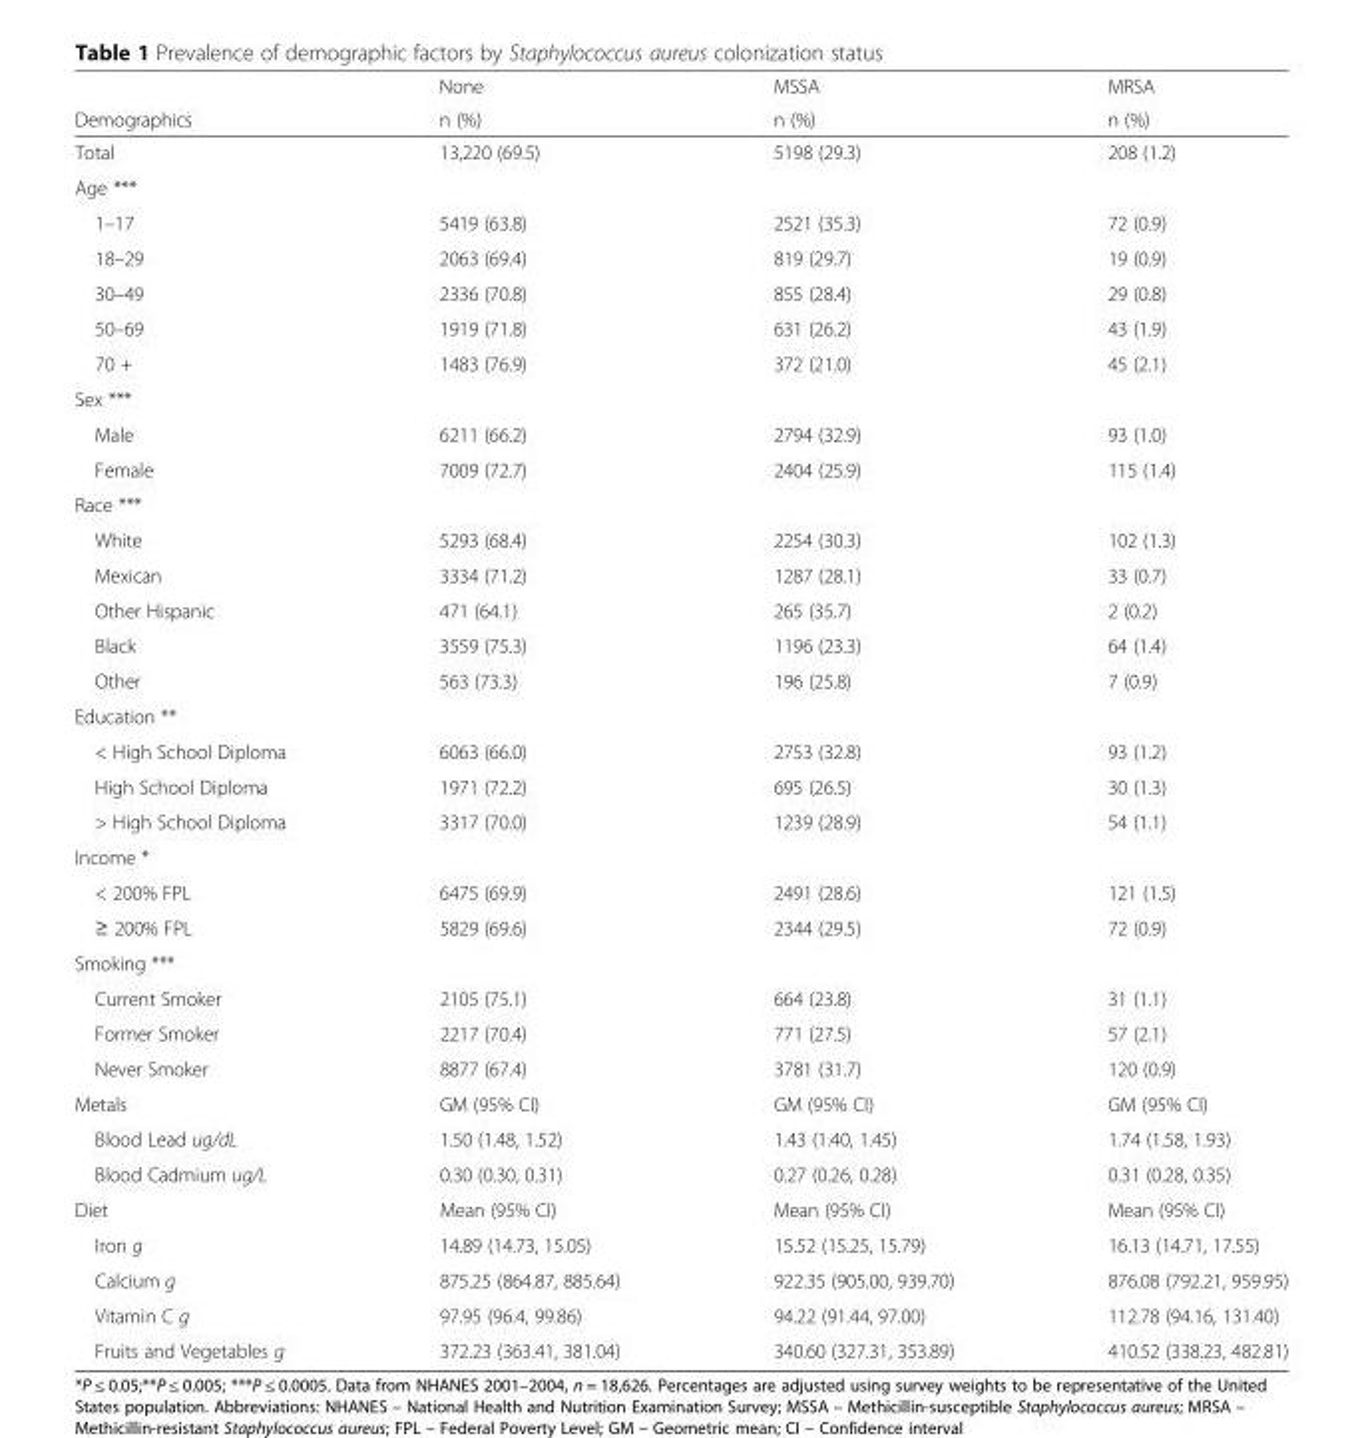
<table><thead><tr><td rowspan="2">Demographics</td><td rowspan="2">None n (%)</td><td rowspan="2">MSSA n (%)</td><td rowspan="2">MRSA n (%)</td></tr><tr></tr></thead><tbody><tr><td>Total</td><td>13,220 (69.5)</td><td>5198 (29.3)</td><td>208 (1.2)</td></tr><tr><td colspan="4">Age ***</td></tr><tr><td>1–17</td><td>5419 (63.8)</td><td>2521 (35.3)</td><td>72 (0.9)</td></tr><tr><td>18–29</td><td>2063 (69.4)</td><td>819 (29.7)</td><td>19 (0.9)</td></tr><tr><td>30–49</td><td>2336 (70.8)</td><td>855 (28.4)</td><td>29 (0.8)</td></tr><tr><td>50–69</td><td>1919 (71.8)</td><td>631 (26.2)</td><td>43 (1.9)</td></tr><tr><td>70 +</td><td>1483 (76.9)</td><td>372 (21.0)</td><td>45 (2.1)</td></tr><tr><td colspan="4">Sex ***</td></tr><tr><td>Male</td><td>6211 (66.2)</td><td>2794 (32.9)</td><td>93 (1.0)</td></tr><tr><td>Female</td><td>7009 (72.7)</td><td>2404 (25.9)</td><td>115 (1.4)</td></tr><tr><td colspan="4">Race ***</td></tr><tr><td>White</td><td>5293 (68.4)</td><td>2254 (30.3)</td><td>102 (1.3)</td></tr><tr><td>Mexican</td><td>3334 (71.2)</td><td>1287 (28.1)</td><td>33 (0.7)</td></tr><tr><td>Other Hispanic</td><td>471 (64.1)</td><td>265 (35.7)</td><td>2 (0.2)</td></tr><tr><td>Black</td><td>3559 (75.3)</td><td>1196 (23.3)</td><td>64 (1.4)</td></tr><tr><td>Other</td><td>563 (73.3)</td><td>196 (25.8)</td><td>7 (0.9)</td></tr><tr><td colspan="4">Education **</td></tr><tr><td>&lt; High School Diploma</td><td>6063 (66.0)</td><td>2753 (32.8)</td><td>93 (1.2)</td></tr><tr><td>High School Diploma</td><td>1971 (72.2)</td><td>695 (26.5)</td><td>30 (1.3)</td></tr><tr><td>&gt; High School Diploma</td><td>3317 (70.0)</td><td>1239 (28.9)</td><td>54 (1.1)</td></tr><tr><td colspan="4">Income *</td></tr><tr><td>&lt; 200% FPL</td><td>6475 (69.9)</td><td>2491 (28.6)</td><td>121 (1.5)</td></tr><tr><td>≥ 200% FPL</td><td>5829 (69.6)</td><td>2344 (29.5)</td><td>72 (0.9)</td></tr><tr><td colspan="4">Smoking ***</td></tr><tr><td>Current Smoker</td><td>2105 (75.1)</td><td>664 (23.8)</td><td>31 (1.1)</td></tr><tr><td>Former Smoker</td><td>2217 (70.4)</td><td>771 (27.5)</td><td>57 (2.1)</td></tr><tr><td>Never Smoker</td><td>8877 (67.4)</td><td>3781 (31.7)</td><td>120 (0.9)</td></tr><tr><td>Metals</td><td>GM (95% CI)</td><td>GM (95% CI)</td><td>GM (95% CI)</td></tr><tr><td>Blood Lead ug/dL</td><td>1.50 (1.48, 1.52)</td><td>1.43 (1.40, 1.45)</td><td>1.74 (1.58, 1.93)</td></tr><tr><td>Blood Cadmium ug/L</td><td>0.30 (0.30, 0.31)</td><td>0.27 (0.26, 0.28)</td><td>0.31 (0.28, 0.35)</td></tr><tr><td>Diet</td><td>Mean (95% CI)</td><td>Mean (95% CI)</td><td>Mean (95% CI)</td></tr><tr><td>Iron g</td><td>14.89 (14.73, 15.05)</td><td>15.52 (15.25, 15.79)</td><td>16.13 (14.71, 17.55)</td></tr><tr><td>Calcium g</td><td>875.25 (864.87, 885.64)</td><td>922.35 (905.00, 939.70)</td><td>876.08 (792.21, 959.95)</td></tr><tr><td>Vitamin C g</td><td>97.95 (96.4, 99.86)</td><td>94.22 (91.44, 97.00)</td><td>112.78 (94.16, 131.40)</td></tr><tr><td>Fruits and Vegetables g</td><td>372.23 (363.41, 381.04)</td><td>340.60 (327.31, 353.89)</td><td>410.52 (338.23, 482.81)</td></tr></tbody></table>